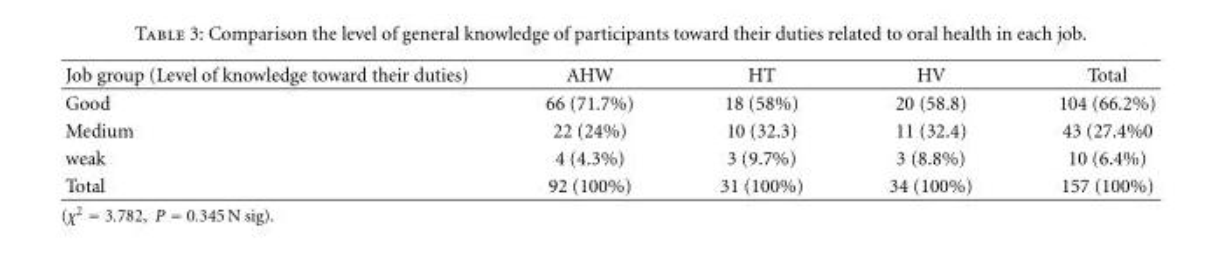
<table><thead><tr><td>Job group (Level of knowledge toward their duties)</td><td>AHW</td><td>HT</td><td>HV</td><td>Total</td></tr></thead><tbody><tr><td>Good</td><td>66 (71.7%)</td><td>18 (58%)</td><td>20 (58.8)</td><td>104 (66.2%)</td></tr><tr><td>Medium</td><td>22 (24%)</td><td>10 (32.3)</td><td>11 (32.4)</td><td>43 (27.4%0</td></tr><tr><td>weak</td><td>4 (4.3%)</td><td>3 (9.7%)</td><td>3 (8.8%)</td><td>10 (6.4%)</td></tr><tr><td>Total</td><td>92 (100%)</td><td>31 (100%)</td><td>34 (100%)</td><td>157 (100%)</td></tr></tbody></table>